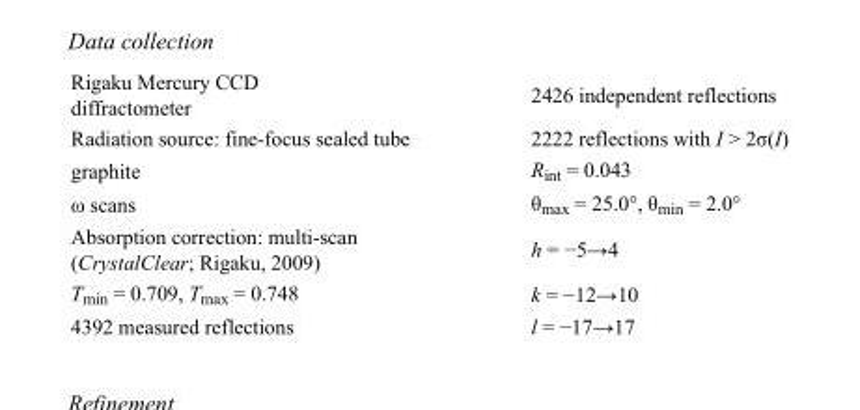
<table><tbody><tr><td>Rigaku Mercury CCD diffractometer</td><td>2426 independent reflections</td></tr><tr><td>Radiation source: fine-focus sealed tube</td><td>2222 reflections with I &gt; 2σ(I)</td></tr><tr><td>graphite</td><td>R<sub>int</sub> = 0.043</td></tr><tr><td>ω scans</td><td>θ<sub>max</sub> = 25.0°, θ<sub>min</sub> = 2.0°</td></tr><tr><td>Absorption correction: multi-scan (CrystalClear; Rigaku, 2009)</td><td>h = −5→4</td></tr><tr><td>T<sub>min</sub> = 0.709, T<sub>max</sub> = 0.748</td><td>k = −12→10</td></tr><tr><td>4392 measured reflections</td><td>l = −17→17</td></tr></tbody></table>